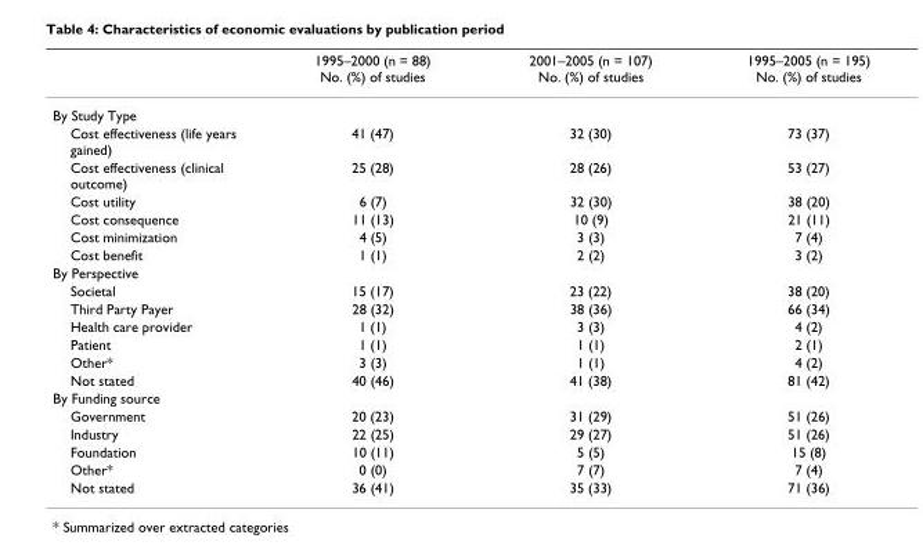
<table><thead><tr><td></td><td>1995–2000 (n = 88) No. (%) of studies</td><td>2001–2005 (n = 107) No. (%) of studies</td><td>1995–2005 (n = 195) No. (%) of studies</td></tr></thead><tbody><tr><td colspan="4">By Study Type</td></tr><tr><td>Cost effectiveness (life years gained)</td><td>41 (47)</td><td>32 (30)</td><td>73 (37)</td></tr><tr><td>Cost effectiveness (clinical outcome)</td><td>25 (28)</td><td>28 (26)</td><td>53 (27)</td></tr><tr><td>Cost utility</td><td>6 (7)</td><td>32 (30)</td><td>38 (20)</td></tr><tr><td>Cost consequence</td><td>11 (13)</td><td>10 (9)</td><td>21 (11)</td></tr><tr><td>Cost minimization</td><td>4 (5)</td><td>3 (3)</td><td>7 (4)</td></tr><tr><td>Cost benefit</td><td>1 (1)</td><td>2 (2)</td><td>3 (2)</td></tr><tr><td colspan="4">By Perspective</td></tr><tr><td>Societal</td><td>15 (17)</td><td>23 (22)</td><td>38 (20)</td></tr><tr><td>Third Party Payer</td><td>28 (32)</td><td>38 (36)</td><td>66 (34)</td></tr><tr><td>Health care provider</td><td>1 (1)</td><td>3 (3)</td><td>4 (2)</td></tr><tr><td>Patient</td><td>1 (1)</td><td>1 (1)</td><td>2 (1)</td></tr><tr><td>Other*</td><td>3 (3)</td><td>1 (1)</td><td>4 (2)</td></tr><tr><td>Not stated</td><td>40 (46)</td><td>41 (38)</td><td>81 (42)</td></tr><tr><td colspan="4">By Funding source</td></tr><tr><td>Government</td><td>20 (23)</td><td>31 (29)</td><td>51 (26)</td></tr><tr><td>Industry</td><td>22 (25)</td><td>29 (27)</td><td>51 (26)</td></tr><tr><td>Foundation</td><td>10 (11)</td><td>5 (5)</td><td>15 (8)</td></tr><tr><td>Other*</td><td>0 (0)</td><td>7 (7)</td><td>7 (4)</td></tr><tr><td>Not stated</td><td>36 (41)</td><td>35 (33)</td><td>71 (36)</td></tr></tbody></table>